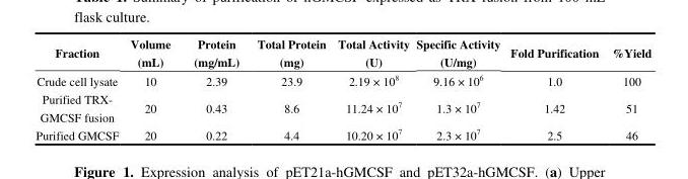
<table><thead><tr><td>Fraction</td><td>Volume (mL)</td><td>Protein (mg/mL)</td><td>Total Protein (mg)</td><td>Total Activity (U)</td><td>Specific Activity (U/mg)</td><td>Fold Purification</td><td>%Yield</td></tr></thead><tbody><tr><td>Crude cell lysate</td><td>10</td><td>2.39</td><td>23.9</td><td>2.19 × 10<sup>8</sup></td><td>9.16 × 10<sup>6</sup></td><td>1.0</td><td>100</td></tr><tr><td>Purified TRX- GMCSF fusion</td><td>20</td><td>0.43</td><td>8.6</td><td>11.24 × 10<sup>7</sup></td><td>1.3 × 10<sup>7</sup></td><td>1.42</td><td>51</td></tr><tr><td>Purified GMCSF</td><td>20</td><td>0.22</td><td>4.4</td><td>10.20 × 10<sup>7</sup></td><td>2.3 × 10<sup>7</sup></td><td>2.5</td><td>46</td></tr></tbody></table>